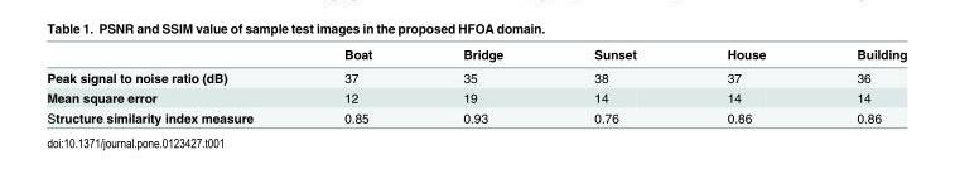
<table><thead><tr><td></td><td>Boat</td><td>Bridge</td><td>Sunset</td><td>House</td><td>Building</td></tr></thead><tbody><tr><td>Peak signal to noise ratio (dB)</td><td>37</td><td>35</td><td>38</td><td>37</td><td>36</td></tr><tr><td>Mean square error</td><td>12</td><td>19</td><td>14</td><td>14</td><td>14</td></tr><tr><td>Structure similarity index measure</td><td>0.85</td><td>0.93</td><td>0.76</td><td>0.86</td><td>0.86</td></tr></tbody></table>